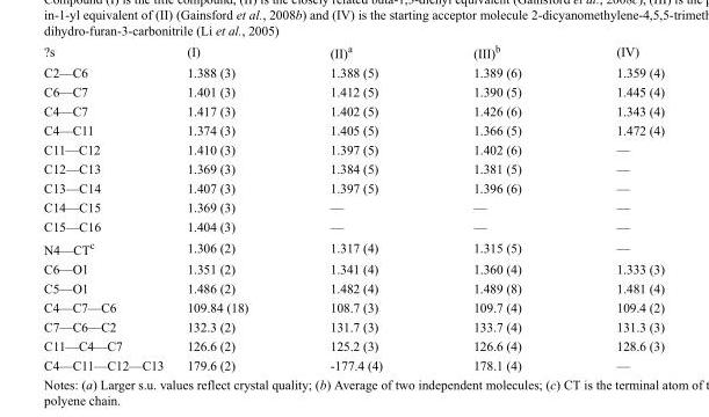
<table><tbody><tr><td>?s</td><td>(I)</td><td>(II)<sup>a</sup></td><td>(III)<sup>b</sup></td><td>(IV)</td></tr><tr><td>C2—C6</td><td>1.388 (3)</td><td>1.388 (5)</td><td>1.389 (6)</td><td>1.359 (4)</td></tr><tr><td>C6—C7</td><td>1.401 (3)</td><td>1.412 (5)</td><td>1.390 (5)</td><td>1.445 (4)</td></tr><tr><td>C4—C7</td><td>1.417 (3)</td><td>1.402 (5)</td><td>1.426 (6)</td><td>1.343 (4)</td></tr><tr><td>C4—C11</td><td>1.374 (3)</td><td>1.405 (5)</td><td>1.366 (5)</td><td>1.472 (4)</td></tr><tr><td>C11—C12</td><td>1.410 (3)</td><td>1.397 (5)</td><td>1.402 (6)</td><td>—</td></tr><tr><td>C12—C13</td><td>1.369 (3)</td><td>1.384 (5)</td><td>1.381 (5)</td><td>—</td></tr><tr><td>C13—C14</td><td>1.407 (3)</td><td>1.397 (5)</td><td>1.396 (6)</td><td>—</td></tr><tr><td>C14—C15</td><td>1.369 (3)</td><td>—</td><td>—</td><td>—</td></tr><tr><td>C15—C16</td><td>1.404 (3)</td><td>—</td><td>—</td><td>—</td></tr><tr><td>N4—CT<sup>c</sup></td><td>1.306 (2)</td><td>1.317 (4)</td><td>1.315 (5)</td><td>—</td></tr><tr><td>C6—O1</td><td>1.351 (2)</td><td>1.341 (4)</td><td>1.360 (4)</td><td>1.333 (3)</td></tr><tr><td>C5—O1</td><td>1.486 (2)</td><td>1.482 (4)</td><td>1.489 (8)</td><td>1.481 (4)</td></tr><tr><td>C4—C7—C6</td><td>109.84 (18)</td><td>108.7 (3)</td><td>109.7 (4)</td><td>109.4 (2)</td></tr><tr><td>C7—C6—C2</td><td>132.3 (2)</td><td>131.7 (3)</td><td>133.7 (4)</td><td>131.3 (3)</td></tr><tr><td>C11—C4—C7</td><td>126.6 (2)</td><td>125.2 (3)</td><td>126.6 (4)</td><td>128.6 (3)</td></tr><tr><td>C4—C11—C12—C13</td><td>179.6 (2)</td><td>-177.4 (4)</td><td>178.1 (4)</td><td>—</td></tr></tbody></table>